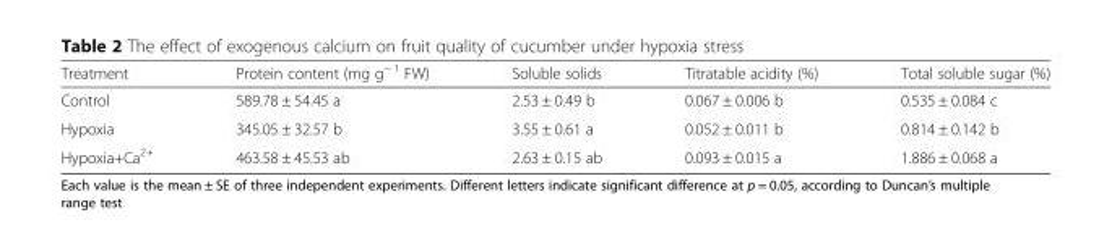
<table><thead><tr><td>Treatment</td><td>Protein content (mg g<sup>− 1</sup> FW)</td><td>Soluble solids</td><td>Titratable acidity (%)</td><td>Total soluble sugar (%)</td></tr></thead><tbody><tr><td>Control</td><td>589.78 ± 54.45 a</td><td>2.53 ± 0.49 b</td><td>0.067 ± 0.006 b</td><td>0.535 ± 0.084 c</td></tr><tr><td>Hypoxia</td><td>345.05 ± 32.57 b</td><td>3.55 ± 0.61 a</td><td>0.052 ± 0.011 b</td><td>0.814 ± 0.142 b</td></tr><tr><td>Hypoxia+Ca<sup>2+</sup></td><td>463.58 ± 45.53 ab</td><td>2.63 ± 0.15 ab</td><td>0.093 ± 0.015 a</td><td>1.886 ± 0.068 a</td></tr></tbody></table>